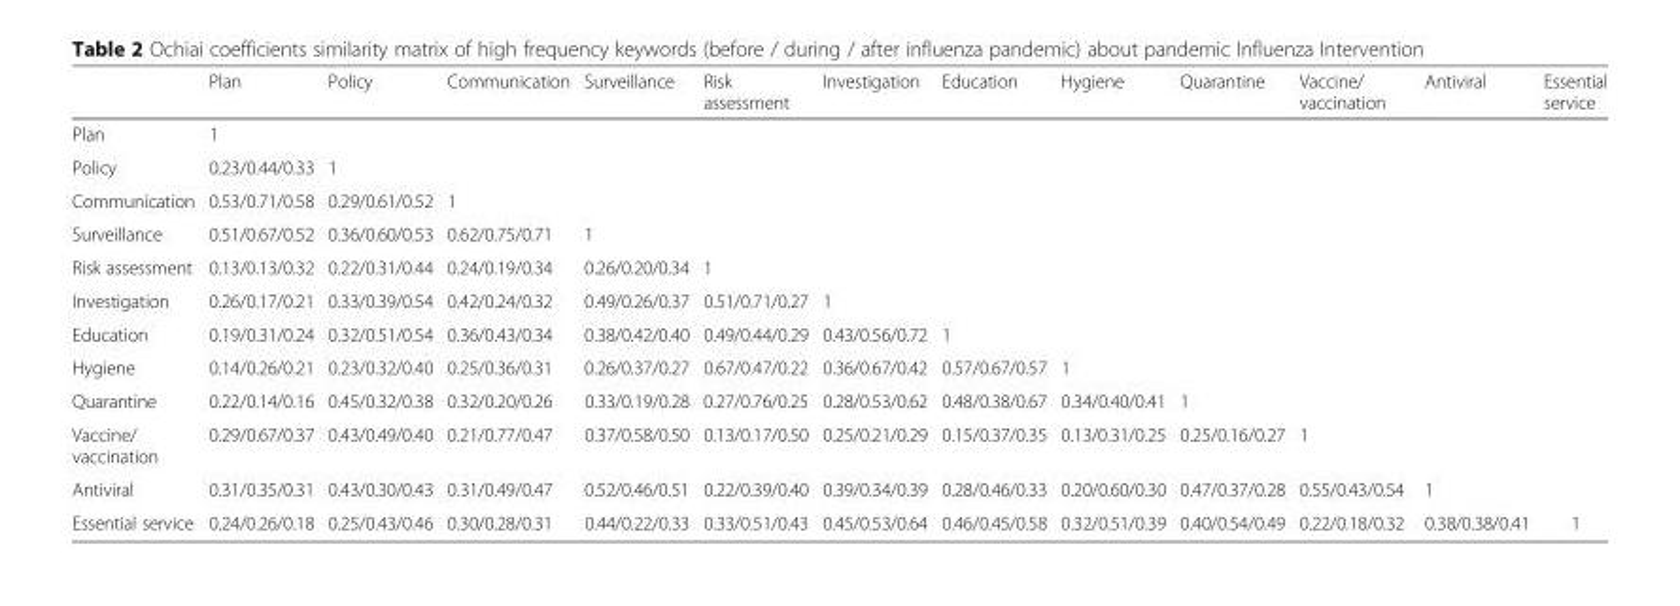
<table><thead><tr><td></td><td>Plan</td><td>Policy</td><td>Communication</td><td>Surveillance</td><td>Risk assessment</td><td>Investigation</td><td>Education</td><td>Hygiene</td><td>Quarantine</td><td>Vaccine/ vaccination</td><td>Antiviral</td><td>Essential service</td></tr></thead><tbody><tr><td>Plan</td><td>1</td><td></td><td></td><td></td><td></td><td></td><td></td><td></td><td></td><td></td><td></td><td></td></tr><tr><td>Policy</td><td>0.23/0.44/0.33</td><td>1</td><td></td><td></td><td></td><td></td><td></td><td></td><td></td><td></td><td></td><td></td></tr><tr><td>Communication</td><td>0.53/0.71/0.58</td><td>0.29/0.61/0.52</td><td>1</td><td></td><td></td><td></td><td></td><td></td><td></td><td></td><td></td><td></td></tr><tr><td>Surveillance</td><td>0.51/0.67/0.52</td><td>0.36/0.60/0.53</td><td>0.62/0.75/0.71</td><td>1</td><td></td><td></td><td></td><td></td><td></td><td></td><td></td><td></td></tr><tr><td>Risk assessment</td><td>0.13/0.13/0.32</td><td>0.22/0.31/0.44</td><td>0.24/0.19/0.34</td><td>0.26/0.20/0.34</td><td>1</td><td></td><td></td><td></td><td></td><td></td><td></td><td></td></tr><tr><td>Investigation</td><td>0.26/0.17/0.21</td><td>0.33/0.39/0.54</td><td>0.42/0.24/0.32</td><td>0.49/0.26/0.37</td><td>0.51/0.71/0.27</td><td>1</td><td></td><td></td><td></td><td></td><td></td><td></td></tr><tr><td>Education</td><td>0.19/0.31/0.24</td><td>0.32/0.51/0.54</td><td>0.36/0.43/0.34</td><td>0.38/0.42/0.40</td><td>0.49/0.44/0.29</td><td>0.43/0.56/0.72</td><td>1</td><td></td><td></td><td></td><td></td><td></td></tr><tr><td>Hygiene</td><td>0.14/0.26/0.21</td><td>0.23/0.32/0.40</td><td>0.25/0.36/0.31</td><td>0.26/0.37/0.27</td><td>0.67/0.47/0.22</td><td>0.36/0.67/0.42</td><td>0.57/0.67/0.57</td><td>1</td><td></td><td></td><td></td><td></td></tr><tr><td>Quarantine</td><td>0.22/0.14/0.16</td><td>0.45/0.32/0.38</td><td>0.32/0.20/0.26</td><td>0.33/0.19/0.28</td><td>0.27/0.76/0.25</td><td>0.28/0.53/0.62</td><td>0.48/0.38/0.67</td><td>0.34/0.40/0.41</td><td>1</td><td></td><td></td><td></td></tr><tr><td>Vaccine/ vaccination</td><td>0.29/0.67/0.37</td><td>0.43/0.49/0.40</td><td>0.21/0.77/0.47</td><td>0.37/0.58/0.50</td><td>0.13/0.17/0.50</td><td>0.25/0.21/0.29</td><td>0.15/0.37/0.35</td><td>0.13/0.31/0.25</td><td>0.25/0.16/0.27</td><td>1</td><td></td><td></td></tr><tr><td>Antiviral</td><td>0.31/0.35/0.31</td><td>0.43/0.30/0.43</td><td>0.31/0.49/0.47</td><td>0.52/0.46/0.51</td><td>0.22/0.39/0.40</td><td>0.39/0.34/0.39</td><td>0.28/0.46/0.33</td><td>0.20/0.60/0.30</td><td>0.47/0.37/0.28</td><td>0.55/0.43/0.54</td><td>1</td><td></td></tr><tr><td>Essential service</td><td>0.24/0.26/0.18</td><td>0.25/0.43/0.46</td><td>0.30/0.28/0.31</td><td>0.44/0.22/0.33</td><td>0.33/0.51/0.43</td><td>0.45/0.53/0.64</td><td>0.46/0.45/0.58</td><td>0.32/0.51/0.39</td><td>0.40/0.54/0.49</td><td>0.22/0.18/0.32</td><td>0.38/0.38/0.41</td><td>1</td></tr></tbody></table>